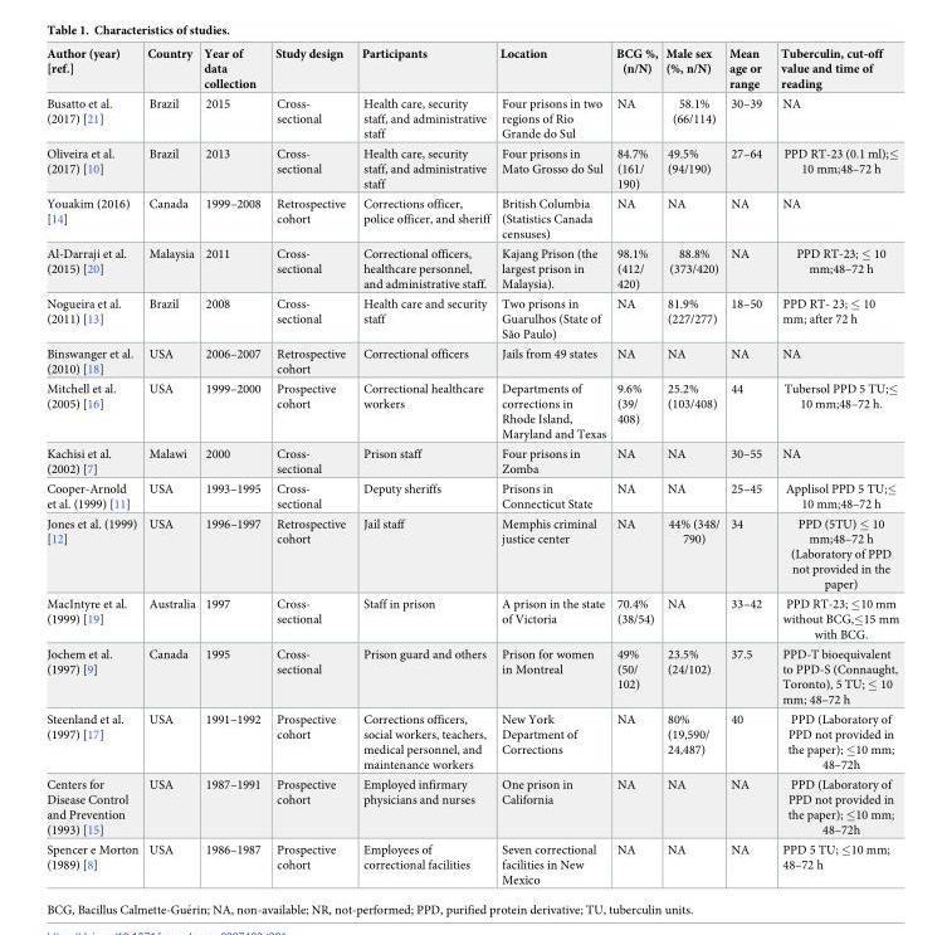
<table><thead><tr><td>Author (year) [ref.]</td><td>Country</td><td>Year of data collection</td><td>Study design</td><td>Participants</td><td>Location</td><td>BCG %, (n/N)</td><td>Male sex (%, n/N)</td><td>Mean age or range</td><td>Tuberculin, cut-off value and time of reading</td></tr></thead><tbody><tr><td>Busatto et al. (2017) [21]</td><td>Brazil</td><td>2015</td><td>Cross- sectional</td><td>Health care, security staff, and administrative staff</td><td>Four prisons in two regions of Rio Grande do Sul</td><td>NA</td><td>58.1% (66/114)</td><td>30–39</td><td>NA</td></tr><tr><td>Oliveira et al. (2017) [10]</td><td>Brazil</td><td>2013</td><td>Cross- sectional</td><td>Health care, security staff, and administrative staff</td><td>Four prisons in Mato Grosso do Sul</td><td>84.7% (161/ 190)</td><td>49.5% (94/190)</td><td>27–64</td><td>PPD RT-23 (0.1 ml);≤ 10 mm;48–72 h</td></tr><tr><td>Youakim (2016) [14]</td><td>Canada</td><td>1999–2008</td><td>Retrospective cohort</td><td>Corrections officer, police officer, and sheriff</td><td>British Columbia (Statistics Canada censuses)</td><td>NA</td><td>NA</td><td>NA</td><td>NA</td></tr><tr><td>Al-Darraji et al. (2015) [20]</td><td>Malaysia</td><td>2011</td><td>Cross- sectional</td><td>Correctional officers, healthcare personnel, and administrative staff.</td><td>Kajang Prison (the largest prison in Malaysia).</td><td>98.1% (412/ 420)</td><td>88.8% (373/420)</td><td>NA</td><td>PPD RT-23; ≤ 10 mm;48–72 h</td></tr><tr><td>Nogueira et al. (2011) [13]</td><td>Brazil</td><td>2008</td><td>Cross- sectional</td><td>Health care and security staff</td><td>Two prisons in Guarulhos (State of São Paulo)</td><td>NA</td><td>81.9% (227/277)</td><td>18–50</td><td>PPD RT- 23; ≤ 10 mm; after 72 h</td></tr><tr><td>Binswanger et al. (2010) [18]</td><td>USA</td><td>2006–2007</td><td>Retrospective cohort</td><td>Correctional officers</td><td>Jails from 49 states</td><td>NA</td><td>NA</td><td>NA</td><td>NA</td></tr><tr><td>Mitchell et al. (2005) [16]</td><td>USA</td><td>1999–2000</td><td>Prospective cohort</td><td>Correctional healthcare workers</td><td>Departments of corrections in Rhode Island, Maryland and Texas</td><td>9.6% (39/ 408)</td><td>25.2% (103/408)</td><td>44</td><td>Tubersol PPD 5 TU;≤ 10 mm;48–72 h.</td></tr><tr><td>Kachisi et al. (2002) [7]</td><td>Malawi</td><td>2000</td><td>Cross- sectional</td><td>Prison staff</td><td>Four prisons in Zomba</td><td>NA</td><td>NA</td><td>30–55</td><td>NA</td></tr><tr><td>Cooper-Arnold et al. (1999) [11]</td><td>USA</td><td>1993–1995</td><td>Cross- sectional</td><td>Deputy sheriffs</td><td>Prisons in Connecticut State</td><td>NA</td><td>NA</td><td>25–45</td><td>Applisol PPD 5 TU;≤ 10 mm;48–72 h</td></tr><tr><td>Jones et al. (1999) [12]</td><td>USA</td><td>1996–1997</td><td>Retrospective cohort</td><td>Jail staff</td><td>Memphis criminal justice center</td><td>NA</td><td>44% (348/ 790)</td><td>34</td><td>PPD (5TU) ≤ 10 mm;48–72 h (Laboratory of PPD not provided in the paper)</td></tr><tr><td>MacIntyre et al. (1999) [19]</td><td>Australia</td><td>1997</td><td>Cross- sectional</td><td>Staff in prison</td><td>A prison in the state of Victoria</td><td>70.4% (38/54)</td><td>NA</td><td>33–42</td><td>PPD RT-23; ≤10 mm without BCG,≤15 mm with BCG.</td></tr><tr><td>Jochem et al. (1997) [9]</td><td>Canada</td><td>1995</td><td>Cross- sectional</td><td>Prison guard and others</td><td>Prison for women in Montreal</td><td>49% (50/ 102)</td><td>23.5% (24/102)</td><td>37.5</td><td>PPD-T bioequivalent to PPD-S (Connaught, Toronto), 5 TU; ≤ 10 mm; 48–72 h</td></tr><tr><td>Steenland et al. (1997) [17]</td><td>USA</td><td>1991–1992</td><td>Prospective cohort</td><td>Corrections officers, social workers, teachers, medical personnel, and maintenance workers</td><td>New York Department of Corrections</td><td>NA</td><td>80% (19,590/ 24,487)</td><td>40</td><td>PPD (Laboratory of PPD not provided in the paper); ≤10 mm; 48–72h</td></tr><tr><td>Centers for Disease Control and Prevention (1993) [15]</td><td>USA</td><td>1987–1991</td><td>Prospective cohort</td><td>Employed infirmary physicians and nurses</td><td>One prison in California</td><td>NA</td><td>NA</td><td>NA</td><td>PPD (Laboratory of PPD not provided in the paper); ≤10 mm; 48–72h</td></tr><tr><td>Spencer e Morton (1989) [8]</td><td>USA</td><td>1986–1987</td><td>Prospective cohort</td><td>Employees of correctional facilities</td><td>Seven correctional facilities in New Mexico</td><td>NA</td><td>NA</td><td>NA</td><td>PPD 5 TU; ≤10 mm; 48–72 h</td></tr></tbody></table>